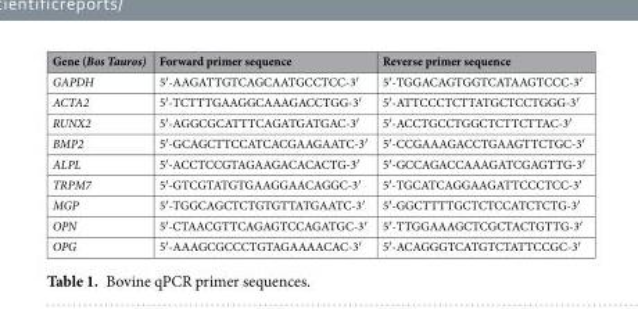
<table><thead><tr><td>Gene (Bos Tauros)</td><td>Forward primer sequence</td><td>Reverse primer sequence</td></tr></thead><tbody><tr><td>GAPDH</td><td>5′-AAGATTGTCAGCAATGCCTCC-3′</td><td>5′-TGGACAGTGGTCATAAGTCCC-3′</td></tr><tr><td>ACTA2</td><td>5′-TCTTTGAAGGCAAAGACCTGG-3′</td><td>5′-ATTCCCTCTTATGCTCCTGGG-3′</td></tr><tr><td>RUNX2</td><td>5′-AGGCGCATTTCAGATGATGAC-3′</td><td>5′-ACCTGCCTGGCTCTTCTTAC-3′</td></tr><tr><td>BMP2</td><td>5′-GCAGCTTCCATCACGAAGAATC-3′</td><td>5′-CCGAAAGACCTGAAGTTCTGC-3′</td></tr><tr><td>ALPL</td><td>5′-ACCTCCGTAGAAGACACACTG-3′</td><td>5′-GCCAGACCAAAGATCGAGTTG-3′</td></tr><tr><td>TRPM7</td><td>5′-GTCGTATGTGAAGGAACAGGC-3′</td><td>5′-TGCATCAGGAAGATTCCCTCC-3′</td></tr><tr><td>MGP</td><td>5′-TGGCAGCTCTGTGTTATGAATC-3′</td><td>5′-GGCTTTTGCTCTCCATCTCTG-3′</td></tr><tr><td>OPN</td><td>5′-CTAACGTTCAGAGTCCAGATGC-3′</td><td>5′-TTGGAAAGCTCGCTACTGTTG-3′</td></tr><tr><td>OPG</td><td>5′-AAAGCGCCCTGTAGAAAACAC-3′</td><td>5′-ACAGGGTCATGTCTATTCCGC-3′</td></tr></tbody></table>